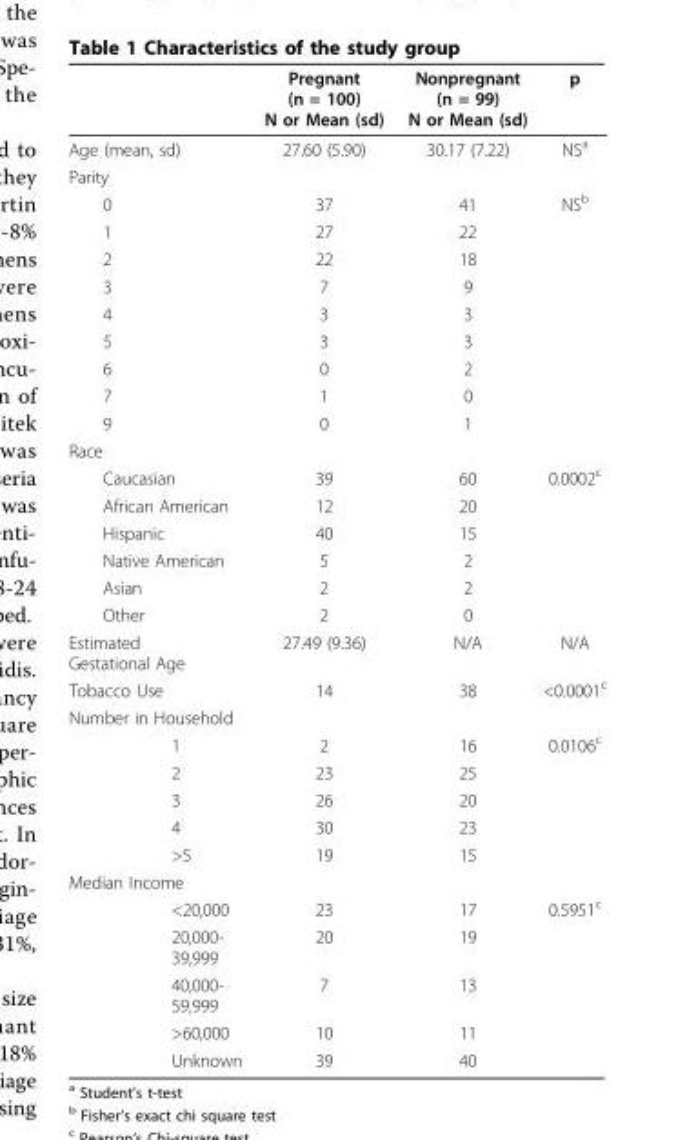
<table><thead><tr><td></td><td>Pregnant (n = 100) N or Mean (sd)</td><td>Nonpregnant (n = 99) N or Mean (sd)</td><td>p</td></tr></thead><tbody><tr><td>Age (mean, sd)</td><td>27.60 (5.90)</td><td>30.17 (7.22)</td><td>NS<sup>a</sup></td></tr><tr><td colspan="4">Parity</td></tr><tr><td>0</td><td>37</td><td>41</td><td>NS<sup>b</sup></td></tr><tr><td>1</td><td>27</td><td>22</td><td></td></tr><tr><td>2</td><td>22</td><td>18</td><td></td></tr><tr><td>3</td><td>7</td><td>9</td><td></td></tr><tr><td>4</td><td>3</td><td>3</td><td></td></tr><tr><td>5</td><td>3</td><td>3</td><td></td></tr><tr><td>6</td><td>0</td><td>2</td><td></td></tr><tr><td>7</td><td>1</td><td>0</td><td></td></tr><tr><td>9</td><td>0</td><td>1</td><td></td></tr><tr><td colspan="4">Race</td></tr><tr><td>Caucasian</td><td>39</td><td>60</td><td>0.0002<sup>c</sup></td></tr><tr><td>African American</td><td>12</td><td>20</td><td></td></tr><tr><td>Hispanic</td><td>40</td><td>15</td><td></td></tr><tr><td>Native American</td><td>5</td><td>2</td><td></td></tr><tr><td>Asian</td><td>2</td><td>2</td><td></td></tr><tr><td>Other</td><td>2</td><td>0</td><td></td></tr><tr><td>Estimated Gestational Age</td><td>27.49 (9.36)</td><td>N/A</td><td>N/A</td></tr><tr><td>Tobacco Use</td><td>14</td><td>38</td><td>&lt;0.0001<sup>c</sup></td></tr><tr><td colspan="4">Number in Household</td></tr><tr><td>1</td><td>2</td><td>16</td><td>0.0106<sup>c</sup></td></tr><tr><td>2</td><td>23</td><td>25</td><td></td></tr><tr><td>3</td><td>26</td><td>20</td><td></td></tr><tr><td>4</td><td>30</td><td>23</td><td></td></tr><tr><td>&gt;5</td><td>19</td><td>15</td><td></td></tr><tr><td colspan="4">Median Income</td></tr><tr><td>&lt;20,000</td><td>23</td><td>17</td><td>0.5951<sup>c</sup></td></tr><tr><td>20,000- 39,999</td><td>20</td><td>19</td><td></td></tr><tr><td>40,000- 59,999</td><td>7</td><td>13</td><td></td></tr><tr><td>&gt;60,000</td><td>10</td><td>11</td><td></td></tr><tr><td>Unknown</td><td>39</td><td>40</td><td></td></tr></tbody></table>